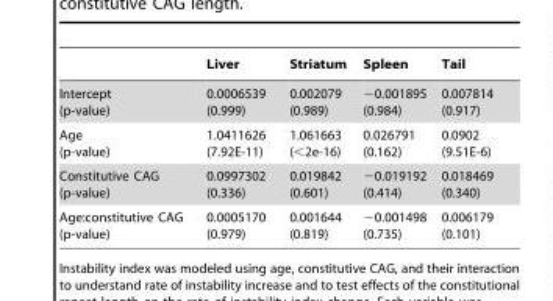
<table><thead><tr><td></td><td>Liver</td><td>Striatum</td><td>Spleen</td><td>Tail</td></tr></thead><tbody><tr><td>Intercept (p-value)</td><td>0.0006539 (0.999)</td><td>0.002079 (0.989)</td><td>−0.001895 (0.984)</td><td>0.007814 (0.917)</td></tr><tr><td>Age (p-value)</td><td>1.0411626 (7.92E-11)</td><td>1.061663 (&lt;2e-16)</td><td>0.026791 (0.162)</td><td>0.0902 (9.51E-6)</td></tr><tr><td>Constitutive CAG (p-value)</td><td>0.0997302 (0.336)</td><td>0.019842 (0.601)</td><td>−0.019192 (0.414)</td><td>0.018469 (0.340)</td></tr><tr><td>Age:constitutive CAG (p-value)</td><td>0.0005170 (0.979)</td><td>0.001644 (0.819)</td><td>−0.001498 (0.735)</td><td>0.006179 (0.101)</td></tr></tbody></table>